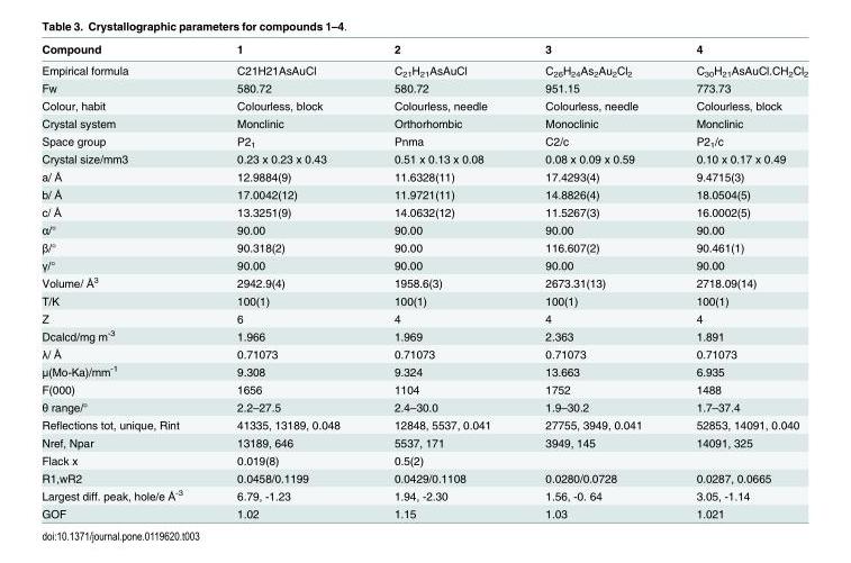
<table><thead><tr><td>Compound</td><td>1</td><td>2</td><td>3</td><td>4</td></tr></thead><tbody><tr><td>Empirical formula</td><td>C21H21AsAuCl</td><td>C<sub>21</sub>H<sub>21</sub>AsAuCl</td><td>C<sub>26</sub>H<sub>24</sub>As<sub>2</sub>Au<sub>2</sub>Cl<sub>2</sub></td><td>C<sub>30</sub>H<sub>21</sub>AsAuCl.CH<sub>2</sub>Cl<sub>2</sub></td></tr><tr><td>Fw</td><td>580.72</td><td>580.72</td><td>951.15</td><td>773.73</td></tr><tr><td>Colour, habit</td><td>Colourless, block</td><td>Colourless, needle</td><td>Colourless, needle</td><td>Colourless, block</td></tr><tr><td>Crystal system</td><td>Monclinic</td><td>Orthorhombic</td><td>Monoclinic</td><td>Monclinic</td></tr><tr><td>Space group</td><td>P2<sub>1</sub></td><td>Pnma</td><td>C2/c</td><td>P2<sub>1</sub>/c</td></tr><tr><td>Crystal size/mm3</td><td>0.23 x 0.23 x 0.43</td><td>0.51 x 0.13 x 0.08</td><td>0.08 x 0.09 x 0.59</td><td>0.10 x 0.17 x 0.49</td></tr><tr><td>a/ Å</td><td>12.9884(9)</td><td>11.6328(11)</td><td>17.4293(4)</td><td>9.4715(3)</td></tr><tr><td>b/ Å</td><td>17.0042(12)</td><td>11.9721(11)</td><td>14.8826(4)</td><td>18.0504(5)</td></tr><tr><td>c/ Å</td><td>13.3251(9)</td><td>14.0632(12)</td><td>11.5267(3)</td><td>16.0002(5)</td></tr><tr><td>α/°</td><td>90.00</td><td>90.00</td><td>90.00</td><td>90.00</td></tr><tr><td>β/°</td><td>90.318(2)</td><td>90.00</td><td>116.607(2)</td><td>90.461(1)</td></tr><tr><td>γ/°</td><td>90.00</td><td>90.00</td><td>90.00</td><td>90.00</td></tr><tr><td>Volume/ Å<sup>3</sup></td><td>2942.9(4)</td><td>1958.6(3)</td><td>2673.31(13)</td><td>2718.09(14)</td></tr><tr><td>T/K</td><td>100(1)</td><td>100(1)</td><td>100(1)</td><td>100(1)</td></tr><tr><td>Z</td><td>6</td><td>4</td><td>4</td><td>4</td></tr><tr><td>Dcalcd/mg m<sup>-3</sup></td><td>1.966</td><td>1.969</td><td>2.363</td><td>1.891</td></tr><tr><td>λ/ Å</td><td>0.71073</td><td>0.71073</td><td>0.71073</td><td>0.71073</td></tr><tr><td>μ(Mo-Ka)/mm<sup>-1</sup></td><td>9.308</td><td>9.324</td><td>13.663</td><td>6.935</td></tr><tr><td>F(000)</td><td>1656</td><td>1104</td><td>1752</td><td>1488</td></tr><tr><td>θ range/°</td><td>2.2–27.5</td><td>2.4–30.0</td><td>1.9–30.2</td><td>1.7–37.4</td></tr><tr><td>Reflections tot, unique, Rint</td><td>41335, 13189, 0.048</td><td>12848, 5537, 0.041</td><td>27755, 3949, 0.041</td><td>52853, 14091, 0.040</td></tr><tr><td>Nref, Npar</td><td>13189, 646</td><td>5537, 171</td><td>3949, 145</td><td>14091, 325</td></tr><tr><td>Flack x</td><td>0.019(8)</td><td>0.5(2)</td><td></td><td></td></tr><tr><td>R1,wR2</td><td>0.0458/0.1199</td><td>0.0429/0.1108</td><td>0.0280/0.0728</td><td>0.0287, 0.0665</td></tr><tr><td>Largest diff. peak, hole/e Å<sup>-3</sup></td><td>6.79, -1.23</td><td>1.94, -2.30</td><td>1.56, -0. 64</td><td>3.05, -1.14</td></tr><tr><td>GOF</td><td>1.02</td><td>1.15</td><td>1.03</td><td>1.021</td></tr></tbody></table>